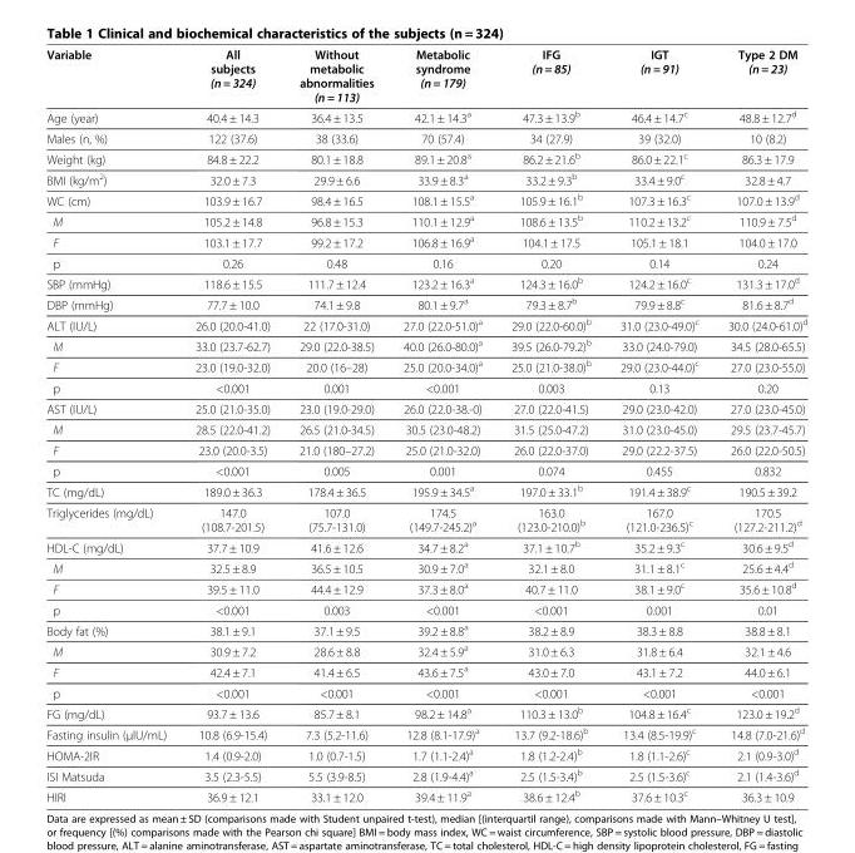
<table><thead><tr><td>Variable</td><td>All subjects (n = 324)</td><td>Without metabolic abnormalities (n = 113)</td><td>Metabolic syndrome (n = 179)</td><td>IFG (n = 85)</td><td>IGT (n = 91)</td><td>Type 2 DM (n = 23)</td></tr></thead><tbody><tr><td>Age (year)</td><td>40.4 ± 14.3</td><td>36.4 ± 13.5</td><td>42.1 ± 14.3<sup>a</sup></td><td>47.3 ± 13.9<sup>b</sup></td><td>46.4 ± 14.7<sup>c</sup></td><td>48.8 ± 12.7<sup>d</sup></td></tr><tr><td>Males (n, %)</td><td>122 (37.6)</td><td>38 (33.6)</td><td>70 (57.4)</td><td>34 (27.9)</td><td>39 (32.0)</td><td>10 (8.2)</td></tr><tr><td>Weight (kg)</td><td>84.8 ± 22.2</td><td>80.1 ± 18.8</td><td>89.1 ± 20.8<sup>a</sup></td><td>86.2 ± 21.6<sup>b</sup></td><td>86.0 ± 22.1<sup>c</sup></td><td>86.3 ± 17.9</td></tr><tr><td>BMI (kg/m<sup>2</sup>)</td><td>32.0 ± 7.3</td><td>29.9 ± 6.6</td><td>33.9 ± 8.3<sup>a</sup></td><td>33.2 ± 9.3<sup>b</sup></td><td>33.4 ± 9.0<sup>c</sup></td><td>32.8 ± 4.7</td></tr><tr><td>WC (cm)</td><td>103.9 ± 16.7</td><td>98.4 ± 16.5</td><td>108.1 ± 15.5<sup>a</sup></td><td>105.9 ± 16.1<sup>b</sup></td><td>107.3 ± 16.3<sup>c</sup></td><td>107.0 ± 13.9<sup>d</sup></td></tr><tr><td>M</td><td>105.2 ± 14.8</td><td>96.8 ± 15.3</td><td>110.1 ± 12.9<sup>a</sup></td><td>108.6 ± 13.5<sup>b</sup></td><td>110.2 ± 13.2<sup>c</sup></td><td>110.9 ± 7.5<sup>d</sup></td></tr><tr><td>F</td><td>103.1 ± 17.7</td><td>99.2 ± 17.2</td><td>106.8 ± 16.9<sup>a</sup></td><td>104.1 ± 17.5</td><td>105.1 ± 18.1</td><td>104.0 ± 17.0</td></tr><tr><td>p</td><td>0.26</td><td>0.48</td><td>0.16</td><td>0.20</td><td>0.14</td><td>0.24</td></tr><tr><td>SBP (mmHg)</td><td>118.6 ± 15.5</td><td>111.7 ± 12.4</td><td>123.2 ± 16.3<sup>a</sup></td><td>124.3 ± 16.0<sup>b</sup></td><td>124.2 ± 16.0<sup>c</sup></td><td>131.3 ± 17.0<sup>d</sup></td></tr><tr><td>DBP (mmHg)</td><td>77.7 ± 10.0</td><td>74.1 ± 9.8</td><td>80.1 ± 9.7<sup>a</sup></td><td>79.3 ± 8.7<sup>b</sup></td><td>79.9 ± 8.8<sup>c</sup></td><td>81.6 ± 8.7<sup>d</sup></td></tr><tr><td>ALT (IU/L)</td><td>26.0 (20.0-41.0)</td><td>22 (17.0-31.0)</td><td>27.0 (22.0-51.0)<sup>a</sup></td><td>29.0 (22.0-60.0)<sup>b</sup></td><td>31.0 (23.0-49.0)<sup>c</sup></td><td>30.0 (24.0-61.0)<sup>d</sup></td></tr><tr><td>M</td><td>33.0 (23.7-62.7)</td><td>29.0 (22.0-38.5)</td><td>40.0 (26.0-80.0)<sup>a</sup></td><td>39.5 (26.0-79.2)<sup>b</sup></td><td>33.0 (24.0-79.0)</td><td>34.5 (28.0-65.5)</td></tr><tr><td>F</td><td>23.0 (19.0-32.0)</td><td>20.0 (16–28)</td><td>25.0 (20.0-34.0)<sup>a</sup></td><td>25.0 (21.0-38.0)<sup>b</sup></td><td>29.0 (23.0-44.0)<sup>c</sup></td><td>27.0 (23.0-55.0)</td></tr><tr><td>p</td><td>&lt;0.001</td><td>0.001</td><td>&lt;0.001</td><td>0.003</td><td>0.13</td><td>0.20</td></tr><tr><td>AST (IU/L)</td><td>25.0 (21.0-35.0)</td><td>23.0 (19.0-29.0)</td><td>26.0 (22.0-38.-0)</td><td>27.0 (22.0-41.5)</td><td>29.0 (23.0-42.0)</td><td>27.0 (23.0-45.0)</td></tr><tr><td>M</td><td>28.5 (22.0-41.2)</td><td>26.5 (21.0-34.5)</td><td>30.5 (23.0-48.2)</td><td>31.5 (25.0-47.2)</td><td>31.0 (23.0-45.0)</td><td>29.5 (23.7-45.7)</td></tr><tr><td>F</td><td>23.0 (20.0-3.5)</td><td>21.0 (180–27.2)</td><td>25.0 (21.0-32.0)</td><td>26.0 (22.0-37.0)</td><td>29.0 (22.2-37.5)</td><td>26.0 (22.0-50.5)</td></tr><tr><td>p</td><td>&lt;0.001</td><td>0.005</td><td>0.001</td><td>0.074</td><td>0.455</td><td>0.832</td></tr><tr><td>TC (mg/dL)</td><td>189.0 ± 36.3</td><td>178.4 ± 36.5</td><td>195.9 ± 34.5<sup>a</sup></td><td>197.0 ± 33.1<sup>b</sup></td><td>191.4 ± 38.9<sup>c</sup></td><td>190.5 ± 39.2</td></tr><tr><td>Triglycerides (mg/dL)</td><td>147.0 (108.7-201.5)</td><td>107.0 (75.7-131.0)</td><td>174.5 (149.7-245.2)<sup>a</sup></td><td>163.0 (123.0-210.0)<sup>b</sup></td><td>167.0 (121.0-236.5)<sup>c</sup></td><td>170.5 (127.2-211.2)<sup>d</sup></td></tr><tr><td>HDL-C (mg/dL)</td><td>37.7 ± 10.9</td><td>41.6 ± 12.6</td><td>34.7 ± 8.2<sup>a</sup></td><td>37.1 ± 10.7<sup>b</sup></td><td>35.2 ± 9.3<sup>c</sup></td><td>30.6 ± 9.5<sup>d</sup></td></tr><tr><td>M</td><td>32.5 ± 8.9</td><td>36.5 ± 10.5</td><td>30.9 ± 7.0<sup>a</sup></td><td>32.1 ± 8.0</td><td>31.1 ± 8.1<sup>c</sup></td><td>25.6 ± 4.4<sup>d</sup></td></tr><tr><td>F</td><td>39.5 ± 11.0</td><td>44.4 ± 12.9</td><td>37.3 ± 8.0<sup>a</sup></td><td>40.7 ± 11.0</td><td>38.1 ± 9.0<sup>c</sup></td><td>35.6 ± 10.8<sup>d</sup></td></tr><tr><td>p</td><td>&lt;0.001</td><td>0.003</td><td>&lt;0.001</td><td>&lt;0.001</td><td>0.001</td><td>0.01</td></tr><tr><td>Body fat (%)</td><td>38.1 ± 9.1</td><td>37.1 ± 9.5</td><td>39.2 ± 8.8<sup>a</sup></td><td>38.2 ± 8.9</td><td>38.3 ± 8.8</td><td>38.8 ± 8.1</td></tr><tr><td>M</td><td>30.9 ± 7.2</td><td>28.6 ± 8.8</td><td>32.4 ± 5.9<sup>a</sup></td><td>31.0 ± 6.3</td><td>31.8 ± 6.4</td><td>32.1 ± 4.6</td></tr><tr><td>F</td><td>42.4 ± 7.1</td><td>41.4 ± 6.5</td><td>43.6 ± 7.5<sup>a</sup></td><td>43.0 ± 7.0</td><td>43.1 ± 7.2</td><td>44.0 ± 6.1</td></tr><tr><td>p</td><td>&lt;0.001</td><td>&lt;0.001</td><td>&lt;0.001</td><td>&lt;0.001</td><td>&lt;0.001</td><td>&lt;0.001</td></tr><tr><td>FG (mg/dL)</td><td>93.7 ± 13.6</td><td>85.7 ± 8.1</td><td>98.2 ± 14.8<sup>a</sup></td><td>110.3 ± 13.0<sup>b</sup></td><td>104.8 ± 16.4<sup>c</sup></td><td>123.0 ± 19.2<sup>d</sup></td></tr><tr><td>Fasting insulin (μlU/mL)</td><td>10.8 (6.9-15.4)</td><td>7.3 (5.2-11.6)</td><td>12.8 (8.1-17.9)<sup>a</sup></td><td>13.7 (9.2-18.6)<sup>b</sup></td><td>13.4 (8.5-19.9)<sup>c</sup></td><td>14.8 (7.0-21.6)<sup>d</sup></td></tr><tr><td>HOMA-2IR</td><td>1.4 (0.9-2.0)</td><td>1.0 (0.7-1.5)</td><td>1.7 (1.1-2.4)<sup>a</sup></td><td>1.8 (1.2-2.4)<sup>b</sup></td><td>1.8 (1.1-2.6)<sup>c</sup></td><td>2.1 (0.9-3.0)<sup>d</sup></td></tr><tr><td>ISI Matsuda</td><td>3.5 (2.3-5.5)</td><td>5.5 (3.9-8.5)</td><td>2.8 (1.9-4.4)<sup>a</sup></td><td>2.5 (1.5-3.4)<sup>b</sup></td><td>2.5 (1.5-3.6)<sup>c</sup></td><td>2.1 (1.4-3.6)<sup>d</sup></td></tr><tr><td>HIRI</td><td>36.9 ± 12.1</td><td>33.1 ± 12.0</td><td>39.4 ± 11.9<sup>a</sup></td><td>38.6 ± 12.4<sup>b</sup></td><td>37.6 ± 10.3<sup>c</sup></td><td>36.3 ± 10.9</td></tr></tbody></table>